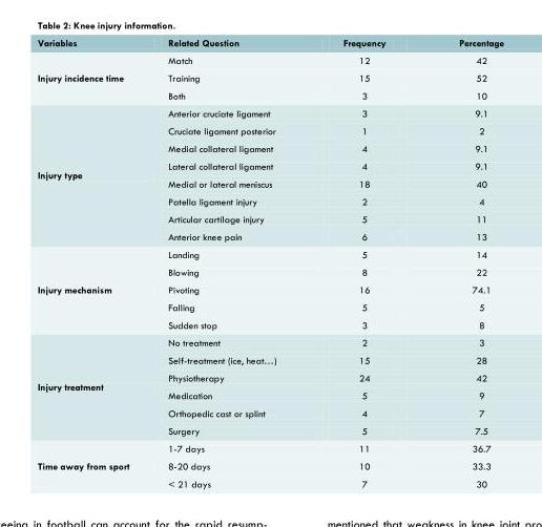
<table><thead><tr><td>Variables</td><td>Related Question</td><td>Frequency</td><td>Percentage</td></tr></thead><tbody><tr><td rowspan="3">Injury incidence time</td><td>Match</td><td>12</td><td>42</td></tr><tr><td>Training</td><td>15</td><td>52</td></tr><tr><td>Both</td><td>3</td><td>10</td></tr><tr><td rowspan="8">Injury type</td><td>Anterior cruciate ligament</td><td>3</td><td>9.1</td></tr><tr><td>Cruciate ligament posterior</td><td>1</td><td>2</td></tr><tr><td>Medial collateral ligament</td><td>4</td><td>9.1</td></tr><tr><td>Lateral collateral ligament</td><td>4</td><td>9.1</td></tr><tr><td>Medial or lateral meniscus</td><td>18</td><td>40</td></tr><tr><td>Patella ligament injury</td><td>2</td><td>4</td></tr><tr><td>Articular cartilage injury</td><td>5</td><td>11</td></tr><tr><td>Anterior knee pain</td><td>6</td><td>13</td></tr><tr><td rowspan="5">Injury mechanism</td><td>Landing</td><td>5</td><td>14</td></tr><tr><td>Blowing</td><td>8</td><td>22</td></tr><tr><td>Pivoting</td><td>16</td><td>74.1</td></tr><tr><td>Falling</td><td>5</td><td>5</td></tr><tr><td>Sudden stop</td><td>3</td><td>8</td></tr><tr><td rowspan="6">Injury treatment</td><td>No treatment</td><td>2</td><td>3</td></tr><tr><td>Self-treatment (ice, heat…)</td><td>15</td><td>28</td></tr><tr><td>Physiotherapy</td><td>24</td><td>42</td></tr><tr><td>Medication</td><td>5</td><td>9</td></tr><tr><td>Orthopedic cast or splint</td><td>4</td><td>7</td></tr><tr><td>Surgery</td><td>5</td><td>7.5</td></tr><tr><td rowspan="3">Time away from sport</td><td>1-7 days</td><td>11</td><td>36.7</td></tr><tr><td>8-20 days</td><td>10</td><td>33.3</td></tr><tr><td>&lt; 21 days</td><td>7</td><td>30</td></tr></tbody></table>